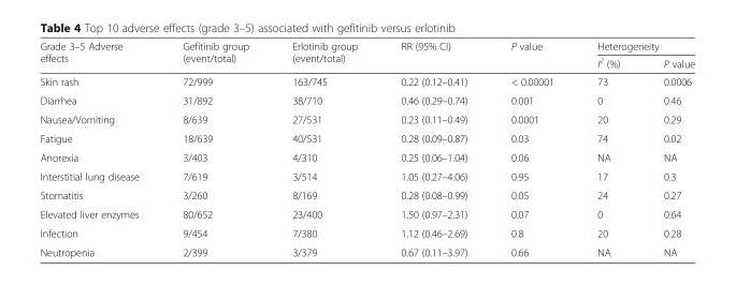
<table><thead><tr><td rowspan="2">Grade 3–5 Adverse effects</td><td rowspan="2">Gefitinib group (event/total)</td><td rowspan="2">Erlotinib group (event/total)</td><td rowspan="2">RR (95% CI)</td><td rowspan="2">P value</td><td colspan="2">Heterogeneity</td></tr><tr><td>I<sup>2</sup> (%)</td><td>P value</td></tr></thead><tbody><tr><td>Skin rash</td><td>72/999</td><td>163/745</td><td>0.22 (0.12–0.41)</td><td>&lt; 0.00001</td><td>73</td><td>0.0006</td></tr><tr><td>Diarrhea</td><td>31/892</td><td>38/710</td><td>0.46 (0.29–0.74)</td><td>0.001</td><td>0</td><td>0.46</td></tr><tr><td>Nausea/Vomiting</td><td>8/639</td><td>27/531</td><td>0.23 (0.11–0.49)</td><td>0.0001</td><td>20</td><td>0.29</td></tr><tr><td>Fatigue</td><td>18/639</td><td>40/531</td><td>0.28 (0.09–0.87)</td><td>0.03</td><td>74</td><td>0.02</td></tr><tr><td>Anorexia</td><td>3/403</td><td>4/310</td><td>0.25 (0.06–1.04)</td><td>0.06</td><td>NA</td><td>NA</td></tr><tr><td>Interstitial lung disease</td><td>7/619</td><td>3/514</td><td>1.05 (0.27–4.06)</td><td>0.95</td><td>17</td><td>0.3</td></tr><tr><td>Stomatitis</td><td>3/260</td><td>8/169</td><td>0.28 (0.08–0.99)</td><td>0.05</td><td>24</td><td>0.27</td></tr><tr><td>Elevated liver enzymes</td><td>80/652</td><td>23/400</td><td>1.50 (0.97–2.31)</td><td>0.07</td><td>0</td><td>0.64</td></tr><tr><td>Infection</td><td>9/454</td><td>7/380</td><td>1.12 (0.46–2.69)</td><td>0.8</td><td>20</td><td>0.28</td></tr><tr><td>Neutropenia</td><td>2/399</td><td>3/379</td><td>0.67 (0.11–3.97)</td><td>0.66</td><td>NA</td><td>NA</td></tr></tbody></table>